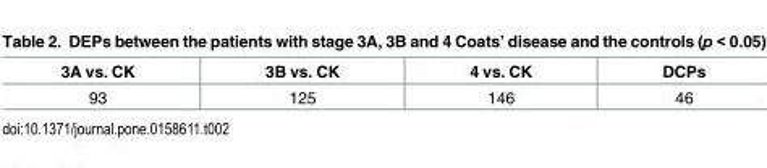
<table><thead><tr><td>3A vs. CK</td><td>3B vs. CK</td><td>4 vs. CK</td><td>DCPs</td></tr></thead><tbody><tr><td>93</td><td>125</td><td>146</td><td>46</td></tr></tbody></table>